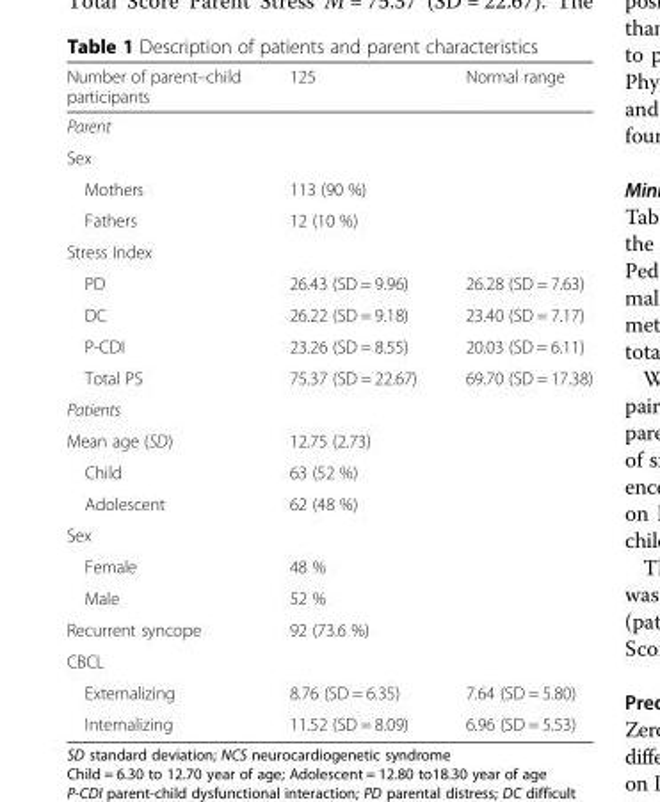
<table><thead><tr><td>Number of parent–child participants</td><td>125</td><td>Normal range</td></tr></thead><tbody><tr><td colspan="3">Parent</td></tr><tr><td colspan="3">Sex</td></tr><tr><td>Mothers</td><td>113 (90 %)</td><td></td></tr><tr><td>Fathers</td><td>12 (10 %)</td><td></td></tr><tr><td colspan="3">Stress Index</td></tr><tr><td>PD</td><td>26.43 (SD = 9.96)</td><td>26.28 (SD = 7.63)</td></tr><tr><td>DC</td><td>26.22 (SD = 9.18)</td><td>23.40 (SD = 7.17)</td></tr><tr><td>P-CDI</td><td>23.26 (SD = 8.55)</td><td>20.03 (SD = 6.11)</td></tr><tr><td>Total PS</td><td>75.37 (SD = 22.67)</td><td>69.70 (SD = 17.38)</td></tr><tr><td colspan="3">Patients</td></tr><tr><td>Mean age (SD)</td><td>12.75 (2.73)</td><td></td></tr><tr><td>Child</td><td>63 (52 %)</td><td></td></tr><tr><td>Adolescent</td><td>62 (48 %)</td><td></td></tr><tr><td colspan="3">Sex</td></tr><tr><td>Female</td><td>48 %</td><td></td></tr><tr><td>Male</td><td>52 %</td><td></td></tr><tr><td>Recurrent syncope</td><td>92 (73.6 %)</td><td></td></tr><tr><td colspan="3">CBCL</td></tr><tr><td>Externalizing</td><td>8.76 (SD = 6.35)</td><td>7.64 (SD = 5.80)</td></tr><tr><td>Internalizing</td><td>11.52 (SD = 8.09)</td><td>6.96 (SD = 5.53)</td></tr></tbody></table>